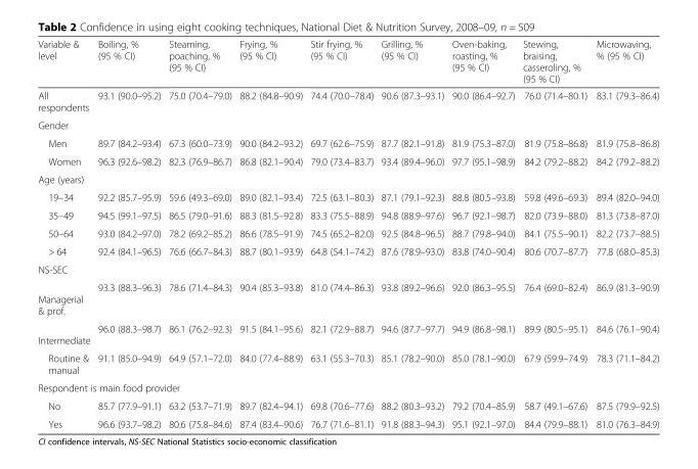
<table><thead><tr><td>Variable &amp; level</td><td>Boiling, % (95 % CI)</td><td>Steaming, poaching, % (95 % CI)</td><td>Frying, % (95 % CI)</td><td>Stir frying, % (95 % CI)</td><td>Grilling, % (95 % CI)</td><td>Oven-baking, roasting, % (95 % CI)</td><td>Stewing, braising, casseroling, % (95 % CI)</td><td>Microwaving, % (95 % CI)</td></tr></thead><tbody><tr><td>All respondents</td><td>93.1 (90.0–95.2)</td><td>75.0 (70.4–79.0)</td><td>88.2 (84.8–90.9)</td><td>74.4 (70.0–78.4)</td><td>90.6 (87.3–93.1)</td><td>90.0 (86.4–92.7)</td><td>76.0 (71.4–80.1)</td><td>83.1 (79.3–86.4)</td></tr><tr><td colspan="9">Gender</td></tr><tr><td>Men</td><td>89.7 (84.2–93.4)</td><td>67.3 (60.0–73.9)</td><td>90.0 (84.2–93.2)</td><td>69.7 (62.6–75.9)</td><td>87.7 (82.1–91.8)</td><td>81.9 (75.3–87.0)</td><td>81.9 (75.8–86.8)</td><td>81.9 (75.8–86.8)</td></tr><tr><td>Women</td><td>96.3 (92.6–98.2)</td><td>82.3 (76.9–86.7)</td><td>86.8 (82.1–90.4)</td><td>79.0 (73.4–83.7)</td><td>93.4 (89.4–96.0)</td><td>97.7 (95.1–98.9)</td><td>84.2 (79.2–88.2)</td><td>84.2 (79.2–88.2)</td></tr><tr><td colspan="9">Age (years)</td></tr><tr><td>19–34</td><td>92.2 (85.7–95.9)</td><td>59.6 (49.3–69.0)</td><td>89.0 (82.1–93.4)</td><td>72.5 (63.1–80.3)</td><td>87.1 (79.1–92.3)</td><td>88.8 (80.5–93.8)</td><td>59.8 (49.6–69.3)</td><td>89.4 (82.0–94.0)</td></tr><tr><td>35–49</td><td>94.5 (99.1–97.5)</td><td>86.5 (79.0–91.6)</td><td>88.3 (81.5–92.8)</td><td>83.3 (75.5–88.9)</td><td>94.8 (88.9–97.6)</td><td>96.7 (92.1–98.7)</td><td>82.0 (73.9–88.0)</td><td>81.3 (73.8–87.0)</td></tr><tr><td>50–64</td><td>93.0 (84.2–97.0)</td><td>78.2 (69.2–85.2)</td><td>86.6 (78.5–91.9)</td><td>74.5 (65.2–82.0)</td><td>92.5 (84.8–96.5)</td><td>88.7 (79.8–94.0)</td><td>84.1 (75.5–90.1)</td><td>82.2 (73.7–88.5)</td></tr><tr><td>&gt; 64</td><td>92.4 (84.1–96.5)</td><td>76.6 (66.7–84.3)</td><td>88.7 (80.1–93.9)</td><td>64.8 (54.1–74.2)</td><td>87.6 (78.9–93.0)</td><td>83.8 (74.0–90.4)</td><td>80.6 (70.7–87.7)</td><td>77.8 (68.0–85.3)</td></tr><tr><td colspan="9">NS-SEC</td></tr><tr><td>Managerial &amp; prof.</td><td>93.3 (88.3–96.3)</td><td>78.6 (71.4–84.3)</td><td>90.4 (85.3–93.8)</td><td>81.0 (74.4–86.3)</td><td>93.8 (89.2–96.6)</td><td>92.0 (86.3–95.5)</td><td>76.4 (69.0–82.4)</td><td>86.9 (81.3–90.9)</td></tr><tr><td>Intermediate</td><td>96.0 (88.3–98.7)</td><td>86.1 (76.2–92.3)</td><td>91.5 (84.1–95.6)</td><td>82.1 (72.9–88.7)</td><td>94.6 (87.7–97.7)</td><td>94.9 (86.8–98.1)</td><td>89.9 (80.5–95.1)</td><td>84.6 (76.1–90.4)</td></tr><tr><td>Routine &amp; manual</td><td>91.1 (85.0–94.9)</td><td>64.9 (57.1–72.0)</td><td>84.0 (77.4–88.9)</td><td>63.1 (55.3–70.3)</td><td>85.1 (78.2–90.0)</td><td>85.0 (78.1–90.0)</td><td>67.9 (59.9–74.9)</td><td>78.3 (71.1–84.2)</td></tr><tr><td colspan="9">Respondent is main food provider</td></tr><tr><td>No</td><td>85.7 (77.9–91.1)</td><td>63.2 (53.7–71.9)</td><td>89.7 (82.4–94.1)</td><td>69.8 (70.6–77.6)</td><td>88.2 (80.3–93.2)</td><td>79.2 (70.4–85.9)</td><td>58.7 (49.1–67.6)</td><td>87.5 (79.9–92.5)</td></tr><tr><td>Yes</td><td>96.6 (93.7–98.2)</td><td>80.6 (75.8–84.6)</td><td>87.4 (83.4–90.6)</td><td>76.7 (71.6–81.1)</td><td>91.8 (88.3–94.3)</td><td>95.1 (92.1–97.0)</td><td>84.4 (79.9–88.1)</td><td>81.0 (76.3–84.9)</td></tr></tbody></table>